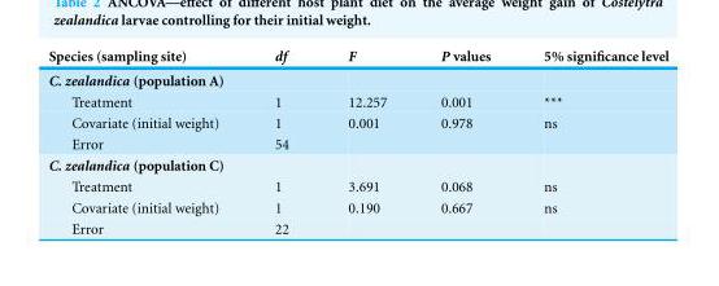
<table><thead><tr><td>Species (sampling site)</td><td>df</td><td>F</td><td>P values</td><td>5% significance level</td></tr></thead><tbody><tr><td colspan="5">C. zealandica (population A)</td></tr><tr><td>Treatment</td><td>1</td><td>12.257</td><td>0.001</td><td>***</td></tr><tr><td>Covariate (initial weight)</td><td>1</td><td>0.001</td><td>0.978</td><td>ns</td></tr><tr><td>Error</td><td>54</td><td></td><td></td><td></td></tr><tr><td colspan="5">C. zealandica (population C)</td></tr><tr><td>Treatment</td><td>1</td><td>3.691</td><td>0.068</td><td>ns</td></tr><tr><td>Covariate (initial weight)</td><td>1</td><td>0.190</td><td>0.667</td><td>ns</td></tr><tr><td>Error</td><td>22</td><td></td><td></td><td></td></tr></tbody></table>